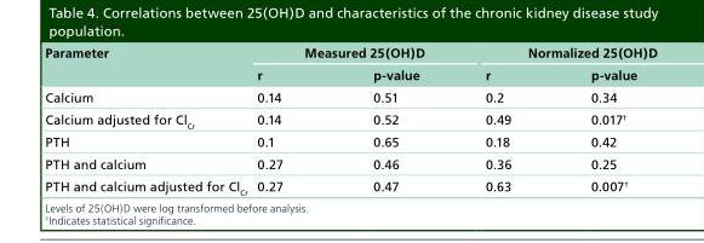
<table><thead><tr><td rowspan="2">Parameter</td><td colspan="2">Measured 25(OH)D</td><td colspan="2">Normalized 25(OH)D</td></tr><tr><td>r</td><td>p-value</td><td>r</td><td>p-value</td></tr></thead><tbody><tr><td>Calcium</td><td>0.14</td><td>0.51</td><td>0.2</td><td>0.34</td></tr><tr><td>Calcium adjusted for Cl<sub>Cr</sub></td><td>0.14</td><td>0.52</td><td>0.49</td><td>0.017<sup>†</sup></td></tr><tr><td>PTH</td><td>0.1</td><td>0.65</td><td>0.18</td><td>0.42</td></tr><tr><td>PTH and calcium</td><td>0.27</td><td>0.46</td><td>0.36</td><td>0.25</td></tr><tr><td>PTH and calcium adjusted for Cl<sub>Cr</sub></td><td>0.27</td><td>0.47</td><td>0.63</td><td>0.007<sup>†</sup></td></tr></tbody></table>